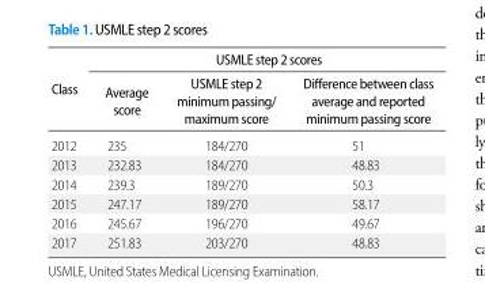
<table><thead><tr><td rowspan="2">Class</td><td colspan="3">USMLE step 2 scores</td></tr><tr><td>Average score</td><td>USMLE step 2 minimum passing/ maximum score</td><td>Difference between class average and reported minimum passing score</td></tr></thead><tbody><tr><td>2012</td><td>235</td><td>184/270</td><td>51</td></tr><tr><td>2013</td><td>232.83</td><td>184/270</td><td>48.83</td></tr><tr><td>2014</td><td>239.3</td><td>189/270</td><td>50.3</td></tr><tr><td>2015</td><td>247.17</td><td>189/270</td><td>58.17</td></tr><tr><td>2016</td><td>245.67</td><td>196/270</td><td>49.67</td></tr><tr><td>2017</td><td>251.83</td><td>203/270</td><td>48.83</td></tr></tbody></table>